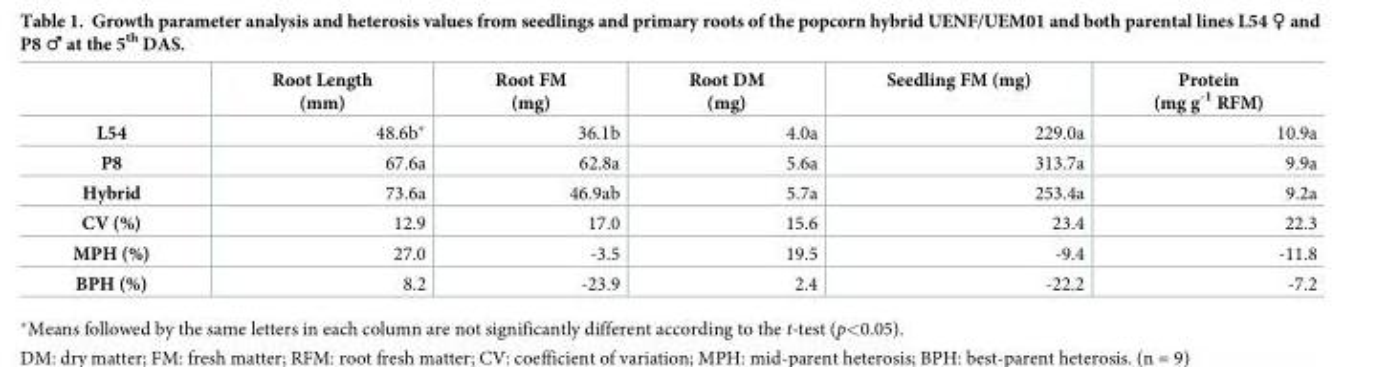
<table><thead><tr><td></td><td>Root Length (mm)</td><td>Root FM (mg)</td><td>Root DM (mg)</td><td>Seedling FM (mg)</td><td>Protein (mg g<sup>-1</sup> RFM)</td></tr></thead><tbody><tr><td>L54</td><td>48.6b*</td><td>36.1b</td><td>4.0a</td><td>229.0a</td><td>10.9a</td></tr><tr><td>P8</td><td>67.6a</td><td>62.8a</td><td>5.6a</td><td>313.7a</td><td>9.9a</td></tr><tr><td>Hybrid</td><td>73.6a</td><td>46.9ab</td><td>5.7a</td><td>253.4a</td><td>9.2a</td></tr><tr><td>CV (%)</td><td>12.9</td><td>17.0</td><td>15.6</td><td>23.4</td><td>22.3</td></tr><tr><td>MPH (%)</td><td>27.0</td><td>-3.5</td><td>19.5</td><td>-9.4</td><td>-11.8</td></tr><tr><td>BPH (%)</td><td>8.2</td><td>-23.9</td><td>2.4</td><td>-22.2</td><td>-7.2</td></tr></tbody></table>